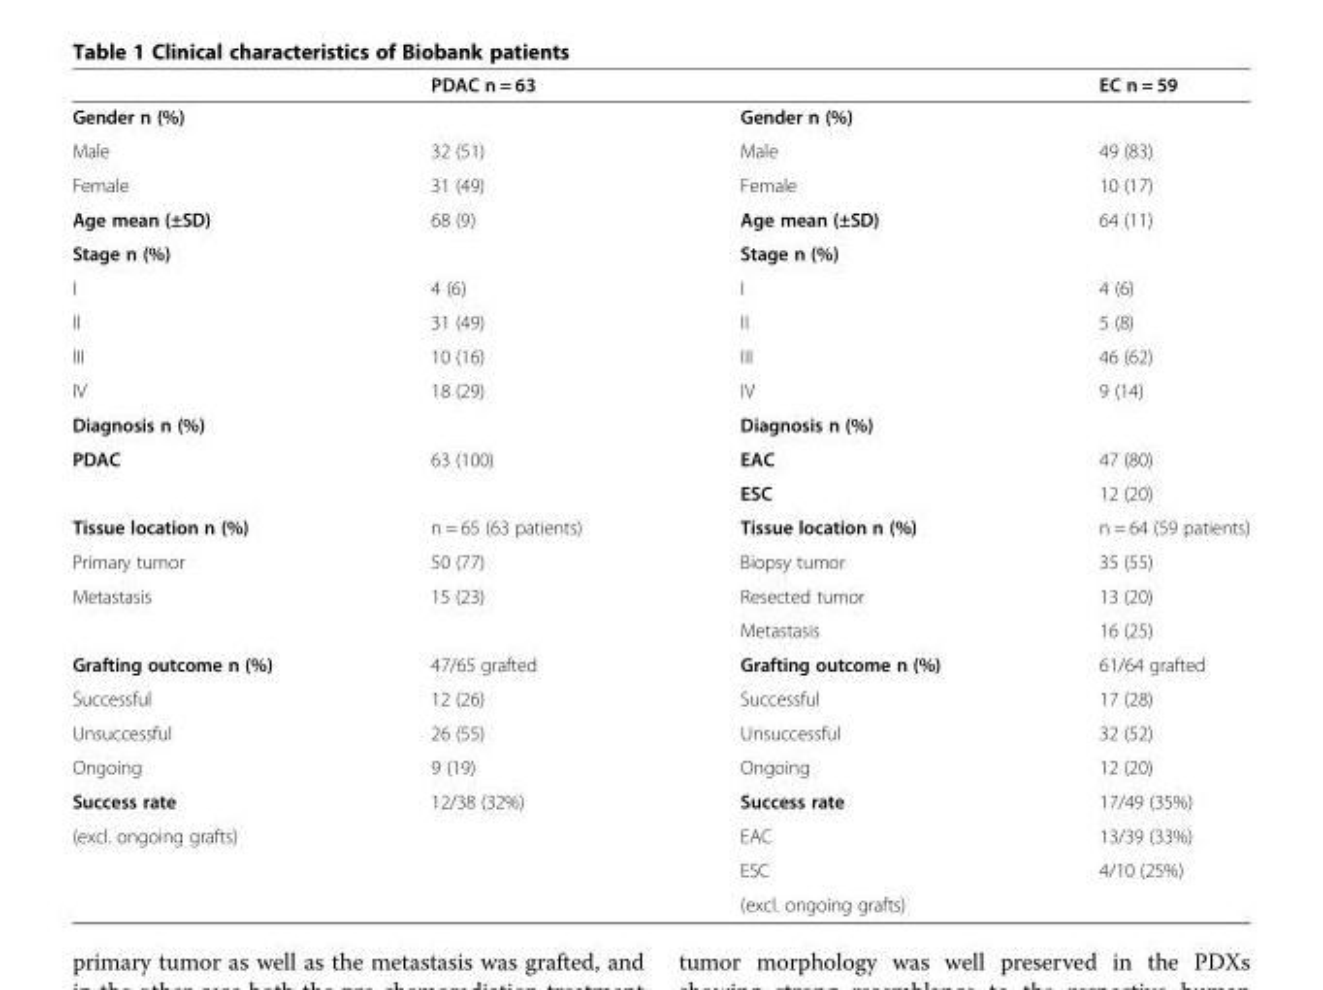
<table><thead><tr><td></td><td>PDAC n = 63</td><td></td><td>EC n = 59</td></tr></thead><tbody><tr><td>Gender n (%)</td><td></td><td>Gender n (%)</td><td></td></tr><tr><td>Male</td><td>32 (51)</td><td>Male</td><td>49 (83)</td></tr><tr><td>Female</td><td>31 (49)</td><td>Female</td><td>10 (17)</td></tr><tr><td>Age mean (±SD)</td><td>68 (9)</td><td>Age mean (±SD)</td><td>64 (11)</td></tr><tr><td>Stage n (%)</td><td></td><td>Stage n (%)</td><td></td></tr><tr><td>I</td><td>4 (6)</td><td>I</td><td>4 (6)</td></tr><tr><td>II</td><td>31 (49)</td><td>II</td><td>5 (8)</td></tr><tr><td>III</td><td>10 (16)</td><td>III</td><td>46 (62)</td></tr><tr><td>IV</td><td>18 (29)</td><td>IV</td><td>9 (14)</td></tr><tr><td>Diagnosis n (%)</td><td></td><td>Diagnosis n (%)</td><td></td></tr><tr><td rowspan="2">PDAC</td><td>63 (100)</td><td>EAC</td><td>47 (80)</td></tr><tr><td></td><td>ESC</td><td>12 (20)</td></tr><tr><td>Tissue location n (%)</td><td>n = 65 (63 patients)</td><td>Tissue location n (%)</td><td>n = 64 (59 patients)</td></tr><tr><td>Primary tumor</td><td>50 (77)</td><td>Biopsy tumor</td><td>35 (55)</td></tr><tr><td rowspan="2">Metastasis</td><td>15 (23)</td><td>Resected tumor</td><td>13 (20)</td></tr><tr><td></td><td>Metastasis</td><td>16 (25)</td></tr><tr><td>Grafting outcome n (%)</td><td>47/65 grafted</td><td>Grafting outcome n (%)</td><td>61/64 grafted</td></tr><tr><td>Successful</td><td>12 (26)</td><td>Successful</td><td>17 (28)</td></tr><tr><td>Unsuccessful</td><td>26 (55)</td><td>Unsuccessful</td><td>32 (52)</td></tr><tr><td>Ongoing</td><td>9 (19)</td><td>Ongoing</td><td>12 (20)</td></tr><tr><td>Success rate</td><td>12/38 (32%)</td><td>Success rate</td><td>17/49 (35%)</td></tr><tr><td rowspan="3">(excl. ongoing grafts)</td><td></td><td>EAC</td><td>13/39 (33%)</td></tr><tr><td></td><td>ESC</td><td>4/10 (25%)</td></tr><tr><td></td><td>(excl. ongoing grafts)</td><td></td></tr></tbody></table>